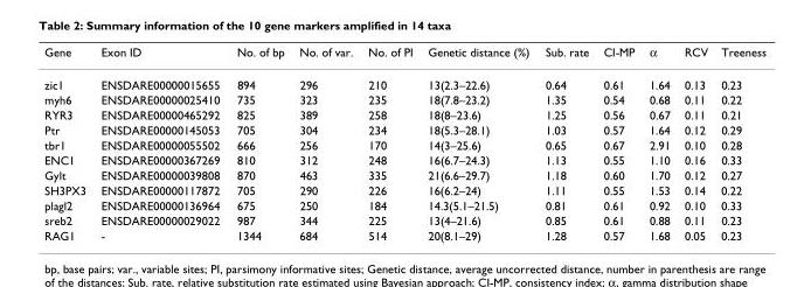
<table><thead><tr><td>Gene</td><td>Exon ID</td><td>No. of bp</td><td>No. of var.</td><td>No. of PI</td><td>Genetic distance (%)</td><td>Sub. rate</td><td>CI-MP</td><td>α</td><td>RCV</td><td>Treeness</td></tr></thead><tbody><tr><td>zic1</td><td>ENSDARE00000015655</td><td>894</td><td>296</td><td>210</td><td>13(2.3–22.6)</td><td>0.64</td><td>0.61</td><td>1.64</td><td>0.13</td><td>0.23</td></tr><tr><td>myh6</td><td>ENSDARE00000025410</td><td>735</td><td>323</td><td>235</td><td>18(7.8–23.2)</td><td>1.35</td><td>0.54</td><td>0.68</td><td>0.11</td><td>0.22</td></tr><tr><td>RYR3</td><td>ENSDARE00000465292</td><td>825</td><td>389</td><td>258</td><td>18(8–23.6)</td><td>1.25</td><td>0.56</td><td>0.67</td><td>0.11</td><td>0.21</td></tr><tr><td>Ptr</td><td>ENSDARE00000145053</td><td>705</td><td>304</td><td>234</td><td>18(5.3–28.1)</td><td>1.03</td><td>0.57</td><td>1.64</td><td>0.12</td><td>0.29</td></tr><tr><td>tbr1</td><td>ENSDARE00000055502</td><td>666</td><td>256</td><td>170</td><td>14(3–25.6)</td><td>0.65</td><td>0.67</td><td>2.91</td><td>0.10</td><td>0.28</td></tr><tr><td>ENC1</td><td>ENSDARE00000367269</td><td>810</td><td>312</td><td>248</td><td>16(6.7–24.3)</td><td>1.13</td><td>0.55</td><td>1.10</td><td>0.16</td><td>0.33</td></tr><tr><td>Gylt</td><td>ENSDARE00000039808</td><td>870</td><td>463</td><td>335</td><td>21(6.6–29.7)</td><td>1.18</td><td>0.60</td><td>1.70</td><td>0.12</td><td>0.27</td></tr><tr><td>SH3PX3</td><td>ENSDARE00000117872</td><td>705</td><td>290</td><td>226</td><td>16(6.2–24)</td><td>1.11</td><td>0.55</td><td>1.53</td><td>0.14</td><td>0.22</td></tr><tr><td>plagl2</td><td>ENSDARE00000136964</td><td>675</td><td>250</td><td>184</td><td>14.3(5.1–21.5)</td><td>0.81</td><td>0.61</td><td>0.92</td><td>0.10</td><td>0.33</td></tr><tr><td>sreb2</td><td>ENSDARE00000029022</td><td>987</td><td>344</td><td>225</td><td>13(4–21.6)</td><td>0.85</td><td>0.61</td><td>0.88</td><td>0.11</td><td>0.23</td></tr><tr><td>RAG1</td><td>-</td><td>1344</td><td>684</td><td>514</td><td>20(8.1–29)</td><td>1.28</td><td>0.57</td><td>1.68</td><td>0.05</td><td>0.23</td></tr></tbody></table>